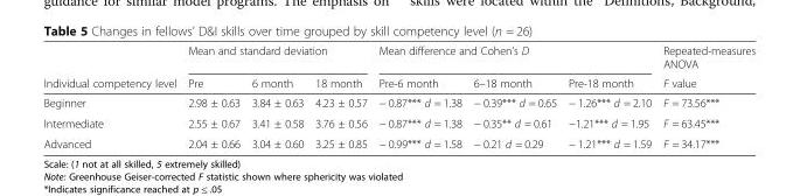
<table><thead><tr><td rowspan="2">Individual competency level</td><td colspan="3">Mean and standard deviation</td><td colspan="3">Mean difference and Cohen’s D</td><td rowspan="2">Repeated-measures ANOVA F value</td></tr><tr><td>Pre</td><td>6 month</td><td>18 month</td><td>Pre-6 month</td><td>6–18 month</td><td>Pre-18 month</td></tr></thead><tbody><tr><td>Beginner</td><td>2.98 ± 0.63</td><td>3.84 ± 0.63</td><td>4.23 ± 0.57</td><td>− 0.87*** d = 1.38</td><td>− 0.39*** d = 0.65</td><td>− 1.26*** d = 2.10</td><td>F = 73.56***</td></tr><tr><td>Intermediate</td><td>2.55 ± 0.67</td><td>3.41 ± 0.58</td><td>3.76 ± 0.56</td><td>− 0.87*** d = 1.38</td><td>− 0.35** d = 0.61</td><td>−1.21*** d = 1.95</td><td>F = 63.45***</td></tr><tr><td>Advanced</td><td>2.04 ± 0.66</td><td>3.04 ± 0.60</td><td>3.25 ± 0.85</td><td>− 0.99*** d = 1.58</td><td>− 0.21 d = 0.29</td><td>− 1.21*** d = 1.59</td><td>F = 34.17***</td></tr></tbody></table>